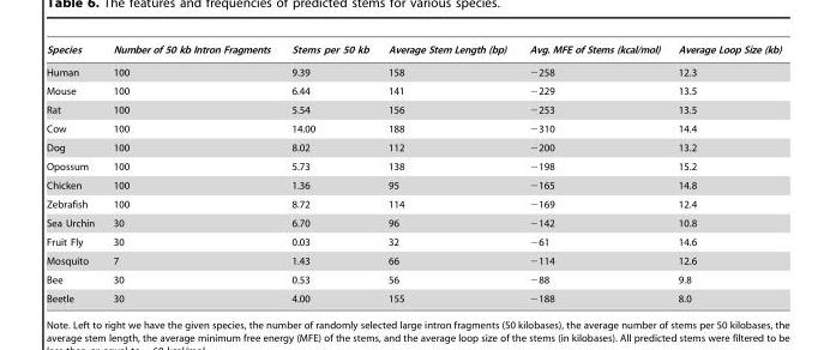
<table><thead><tr><td>Species</td><td>Number of 50 kb Intron Fragments</td><td>Stems per 50 kb</td><td>Average Stem Length (bp)</td><td>Avg. MFE of Stems (kcal/mol)</td><td>Average Loop Size (kb)</td></tr></thead><tbody><tr><td>Human</td><td>100</td><td>9.39</td><td>158</td><td>−258</td><td>12.3</td></tr><tr><td>Mouse</td><td>100</td><td>6.44</td><td>141</td><td>−229</td><td>13.5</td></tr><tr><td>Rat</td><td>100</td><td>5.54</td><td>156</td><td>−253</td><td>13.5</td></tr><tr><td>Cow</td><td>100</td><td>14.00</td><td>188</td><td>−310</td><td>14.4</td></tr><tr><td>Dog</td><td>100</td><td>8.02</td><td>112</td><td>−200</td><td>13.2</td></tr><tr><td>Opossum</td><td>100</td><td>5.73</td><td>138</td><td>−198</td><td>15.2</td></tr><tr><td>Chicken</td><td>100</td><td>1.36</td><td>95</td><td>−165</td><td>14.8</td></tr><tr><td>Zebrafish</td><td>100</td><td>8.72</td><td>114</td><td>−169</td><td>12.4</td></tr><tr><td>Sea Urchin</td><td>30</td><td>6.70</td><td>96</td><td>−142</td><td>10.8</td></tr><tr><td>Fruit Fly</td><td>30</td><td>0.03</td><td>32</td><td>−61</td><td>14.6</td></tr><tr><td>Mosquito</td><td>7</td><td>1.43</td><td>66</td><td>−114</td><td>12.6</td></tr><tr><td>Bee</td><td>30</td><td>0.53</td><td>56</td><td>−88</td><td>9.8</td></tr><tr><td>Beetle</td><td>30</td><td>4.00</td><td>155</td><td>−188</td><td>8.0</td></tr></tbody></table>